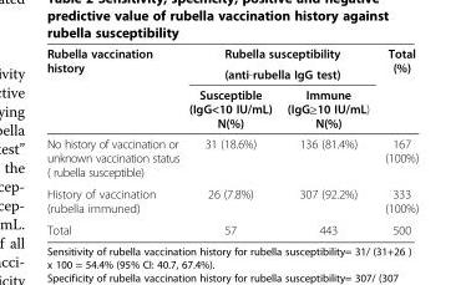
<table><thead><tr><td rowspan="3">Rubella vaccination history</td><td rowspan="2" colspan="2">Rubella susceptibility (anti-rubella IgG test)</td><td rowspan="3">Total (%)</td></tr><tr></tr><tr><td>Susceptible (IgG&lt;10 IU/mL) N(%)</td><td>Immune (IgG≥10 IU/mL) N(%)</td></tr></thead><tbody><tr><td>No history of vaccination or unknown vaccination status ( rubella susceptible)</td><td>31 (18.6%)</td><td>136 (81.4%)</td><td>167 (100%)</td></tr><tr><td>History of vaccination (rubella immuned)</td><td>26 (7.8%)</td><td>307 (92.2%)</td><td>333 (100%)</td></tr><tr><td>Total</td><td>57</td><td>443</td><td>500</td></tr></tbody></table>